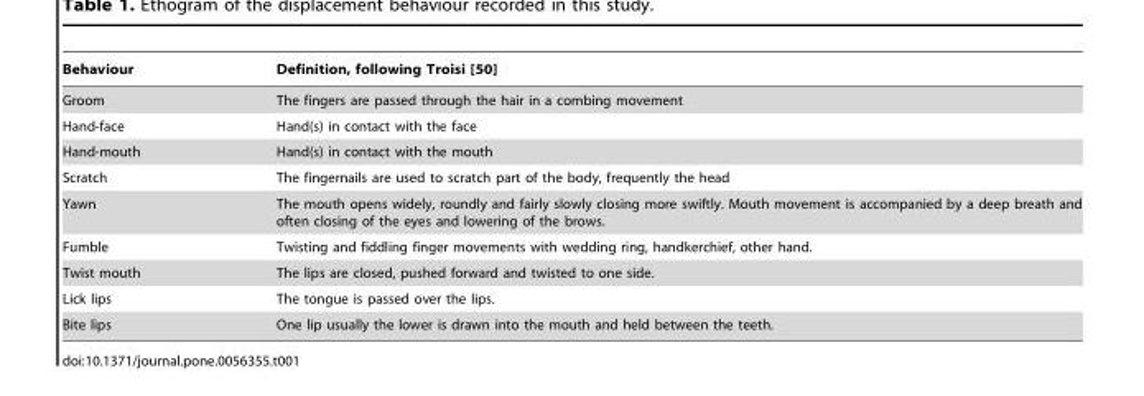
<table><thead><tr><td>Behaviour</td><td>Definition, following Troisi [50]</td></tr></thead><tbody><tr><td>Groom</td><td>The fingers are passed through the hair in a combing movement</td></tr><tr><td>Hand-face</td><td>Hand(s) in contact with the face</td></tr><tr><td>Hand-mouth</td><td>Hand(s) in contact with the mouth</td></tr><tr><td>Scratch</td><td>The fingernails are used to scratch part of the body, frequently the head</td></tr><tr><td>Yawn</td><td>The mouth opens widely, roundly and fairly slowly closing more swiftly. Mouth movement is accompanied by a deep breath and often closing of the eyes and lowering of the brows.</td></tr><tr><td>Fumble</td><td>Twisting and fiddling finger movements with wedding ring, handkerchief, other hand.</td></tr><tr><td>Twist mouth</td><td>The lips are closed, pushed forward and twisted to one side.</td></tr><tr><td>Lick lips</td><td>The tongue is passed over the lips.</td></tr><tr><td>Bite lips</td><td>One lip usually the lower is drawn into the mouth and held between the teeth.</td></tr></tbody></table>